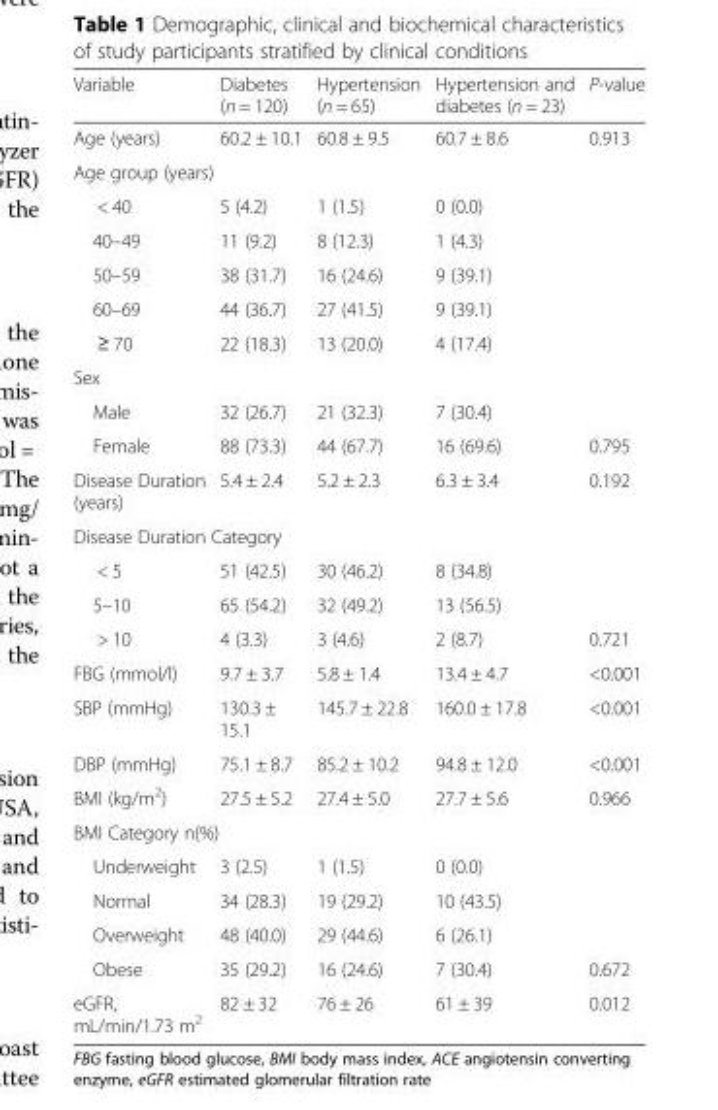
<table><thead><tr><td>Variable</td><td>Diabetes (n = 120)</td><td>Hypertension (n = 65)</td><td>Hypertension and diabetes (n = 23)</td><td>P-value</td></tr></thead><tbody><tr><td>Age (years)</td><td>60.2 ± 10.1</td><td>60.8 ± 9.5</td><td>60.7 ± 8.6</td><td>0.913</td></tr><tr><td colspan="5">Age group (years)</td></tr><tr><td>&lt; 40</td><td>5 (4.2)</td><td>1 (1.5)</td><td>0 (0.0)</td><td></td></tr><tr><td>40–49</td><td>11 (9.2)</td><td>8 (12.3)</td><td>1 (4.3)</td><td></td></tr><tr><td>50–59</td><td>38 (31.7)</td><td>16 (24.6)</td><td>9 (39.1)</td><td></td></tr><tr><td>60–69</td><td>44 (36.7)</td><td>27 (41.5)</td><td>9 (39.1)</td><td></td></tr><tr><td>≥ 70</td><td>22 (18.3)</td><td>13 (20.0)</td><td>4 (17.4)</td><td></td></tr><tr><td colspan="5">Sex</td></tr><tr><td>Male</td><td>32 (26.7)</td><td>21 (32.3)</td><td>7 (30.4)</td><td></td></tr><tr><td>Female</td><td>88 (73.3)</td><td>44 (67.7)</td><td>16 (69.6)</td><td>0.795</td></tr><tr><td>Disease Duration (years)</td><td>5.4 ± 2.4</td><td>5.2 ± 2.3</td><td>6.3 ± 3.4</td><td>0.192</td></tr><tr><td colspan="5">Disease Duration Category</td></tr><tr><td>&lt; 5</td><td>51 (42.5)</td><td>30 (46.2)</td><td>8 (34.8)</td><td></td></tr><tr><td>5–10</td><td>65 (54.2)</td><td>32 (49.2)</td><td>13 (56.5)</td><td></td></tr><tr><td>&gt; 10</td><td>4 (3.3)</td><td>3 (4.6)</td><td>2 (8.7)</td><td>0.721</td></tr><tr><td>FBG (mmol/l)</td><td>9.7 ± 3.7</td><td>5.8 ± 1.4</td><td>13.4 ± 4.7</td><td>&lt;0.001</td></tr><tr><td>SBP (mmHg)</td><td>130.3 ± 15.1</td><td>145.7 ± 22.8</td><td>160.0 ± 17.8</td><td>&lt;0.001</td></tr><tr><td>DBP (mmHg)</td><td>75.1 ± 8.7</td><td>85.2 ± 10.2</td><td>94.8 ± 12.0</td><td>&lt;0.001</td></tr><tr><td>BMI (kg/m<sup>2</sup>)</td><td>27.5 ± 5.2</td><td>27.4 ± 5.0</td><td>27.7 ± 5.6</td><td>0.966</td></tr><tr><td colspan="5">BMI Category n(%)</td></tr><tr><td>Underweight</td><td>3 (2.5)</td><td>1 (1.5)</td><td>0 (0.0)</td><td></td></tr><tr><td>Normal</td><td>34 (28.3)</td><td>19 (29.2)</td><td>10 (43.5)</td><td></td></tr><tr><td>Overweight</td><td>48 (40.0)</td><td>29 (44.6)</td><td>6 (26.1)</td><td></td></tr><tr><td>Obese</td><td>35 (29.2)</td><td>16 (24.6)</td><td>7 (30.4)</td><td>0.672</td></tr><tr><td>eGFR, mL/min/1.73 m<sup>2</sup></td><td>82 ± 32</td><td>76 ± 26</td><td>61 ± 39</td><td>0.012</td></tr></tbody></table>